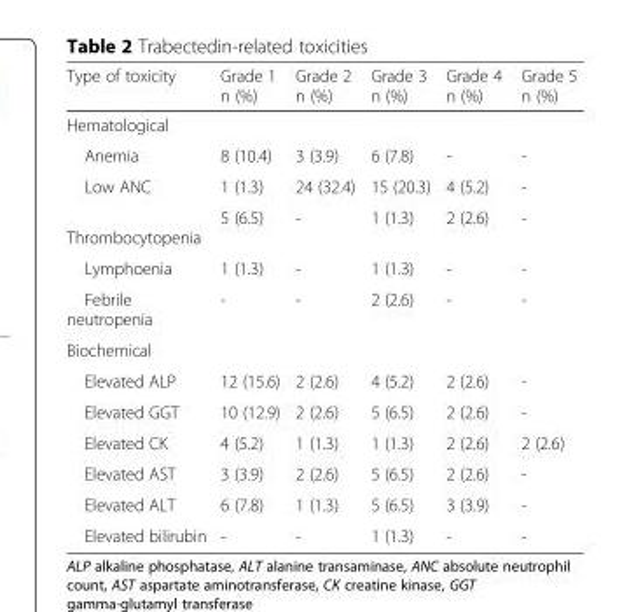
<table><thead><tr><td>Type of toxicity</td><td>Grade 1 n (%)</td><td>Grade 2 n (%)</td><td>Grade 3 n (%)</td><td>Grade 4 n (%)</td><td>Grade 5 n (%)</td></tr></thead><tbody><tr><td colspan="6">Hematological</td></tr><tr><td>Anemia</td><td>8 (10.4)</td><td>3 (3.9)</td><td>6 (7.8)</td><td>-</td><td>-</td></tr><tr><td>Low ANC</td><td>1 (1.3)</td><td>24 (32.4)</td><td>15 (20.3)</td><td>4 (5.2)</td><td>-</td></tr><tr><td>Thrombocytopenia</td><td>5 (6.5)</td><td>-</td><td>1 (1.3)</td><td>2 (2.6)</td><td>-</td></tr><tr><td>Lymphoenia</td><td>1 (1.3)</td><td>-</td><td>1 (1.3)</td><td>-</td><td>-</td></tr><tr><td>Febrile neutropenia</td><td>-</td><td>-</td><td>2 (2.6)</td><td>-</td><td>-</td></tr><tr><td colspan="6">Biochemical</td></tr><tr><td>Elevated ALP</td><td>12 (15.6)</td><td>2 (2.6)</td><td>4 (5.2)</td><td>2 (2.6)</td><td>-</td></tr><tr><td>Elevated GGT</td><td>10 (12.9)</td><td>2 (2.6)</td><td>5 (6.5)</td><td>2 (2.6)</td><td>-</td></tr><tr><td>Elevated CK</td><td>4 (5.2)</td><td>1 (1.3)</td><td>1 (1.3)</td><td>2 (2.6)</td><td>2 (2.6)</td></tr><tr><td>Elevated AST</td><td>3 (3.9)</td><td>2 (2.6)</td><td>5 (6.5)</td><td>2 (2.6)</td><td>-</td></tr><tr><td>Elevated ALT</td><td>6 (7.8)</td><td>1 (1.3)</td><td>5 (6.5)</td><td>3 (3.9)</td><td>-</td></tr><tr><td>Elevated bilirubin</td><td>-</td><td>-</td><td>1 (1.3)</td><td>-</td><td>-</td></tr></tbody></table>